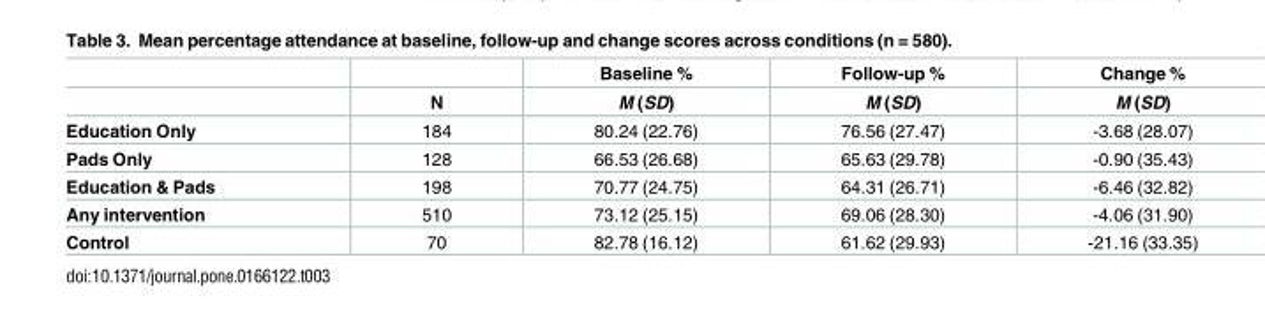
<table><thead><tr><td rowspan="2"></td><td rowspan="2">N</td><td rowspan="2">Baseline % M (SD)</td><td rowspan="2">Follow-up % M (SD)</td><td rowspan="2">Change % M (SD)</td></tr><tr></tr></thead><tbody><tr><td>Education Only</td><td>184</td><td>80.24 (22.76)</td><td>76.56 (27.47)</td><td>-3.68 (28.07)</td></tr><tr><td>Pads Only</td><td>128</td><td>66.53 (26.68)</td><td>65.63 (29.78)</td><td>-0.90 (35.43)</td></tr><tr><td>Education &amp; Pads</td><td>198</td><td>70.77 (24.75)</td><td>64.31 (26.71)</td><td>-6.46 (32.82)</td></tr><tr><td>Any intervention</td><td>510</td><td>73.12 (25.15)</td><td>69.06 (28.30)</td><td>-4.06 (31.90)</td></tr><tr><td>Control</td><td>70</td><td>82.78 (16.12)</td><td>61.62 (29.93)</td><td>-21.16 (33.35)</td></tr></tbody></table>